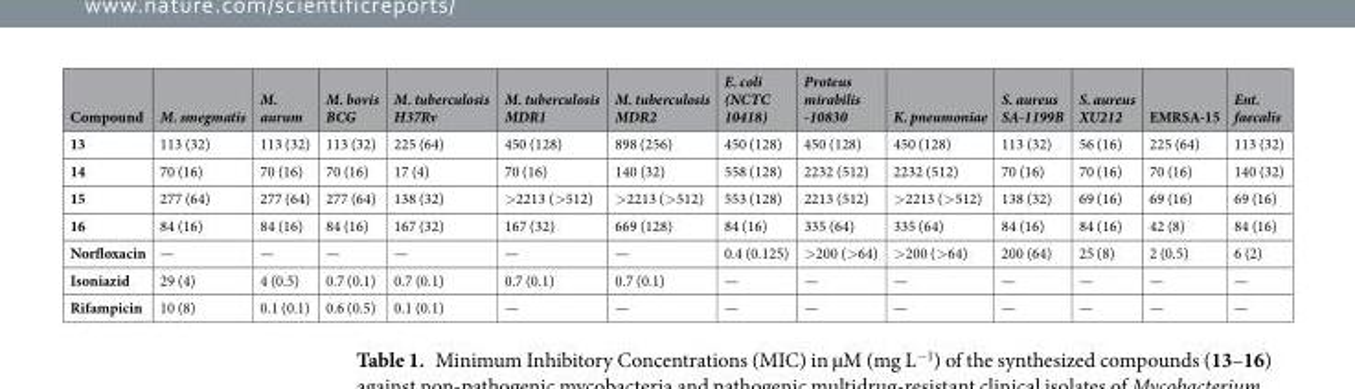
<table><thead><tr><td>Compound</td><td>M. smegmatis</td><td>M. aurum</td><td>M. bovis BCG</td><td>M. tuberculosis H37Rv</td><td>M. tuberculosis MDR1</td><td>M. tuberculosis MDR2</td><td>E. coli (NCTC 10418)</td><td>Proteus mirabilis -10830</td><td>K. pneumoniae</td><td>S. aureus SA-1199B</td><td>S. aureus XU212</td><td>EMRSA-15</td><td>Ent. faecalis</td></tr></thead><tbody><tr><td>13</td><td>113 (32)</td><td>113 (32)</td><td>113 (32)</td><td>225 (64)</td><td>450 (128)</td><td>898 (256)</td><td>450 (128)</td><td>450 (128)</td><td>450 (128)</td><td>113 (32)</td><td>56 (16)</td><td>225 (64)</td><td>113 (32)</td></tr><tr><td>14</td><td>70 (16)</td><td>70 (16)</td><td>70 (16)</td><td>17 (4)</td><td>70 (16)</td><td>140 (32)</td><td>558 (128)</td><td>2232 (512)</td><td>2232 (512)</td><td>70 (16)</td><td>70 (16)</td><td>70 (16)</td><td>140 (32)</td></tr><tr><td>15</td><td>277 (64)</td><td>277 (64)</td><td>277 (64)</td><td>138 (32)</td><td>&gt;2213 (&gt;512)</td><td>&gt;2213 (&gt;512)</td><td>553 (128)</td><td>2213 (512)</td><td>&gt;2213 (&gt;512)</td><td>138 (32)</td><td>69 (16)</td><td>69 (16)</td><td>69 (16)</td></tr><tr><td>16</td><td>84 (16)</td><td>84 (16)</td><td>84 (16)</td><td>167 (32)</td><td>167 (32)</td><td>669 (128)</td><td>84 (16)</td><td>335 (64)</td><td>335 (64)</td><td>84 (16)</td><td>84 (16)</td><td>42 (8)</td><td>84 (16)</td></tr><tr><td>Norfloxacin</td><td>—</td><td>—</td><td>—</td><td>—</td><td>—</td><td>—</td><td>0.4 (0.125)</td><td>&gt;200 (&gt;64)</td><td>&gt;200 (&gt;64)</td><td>200 (64)</td><td>25 (8)</td><td>2 (0.5)</td><td>6 (2)</td></tr><tr><td>Isoniazid</td><td>29 (4)</td><td>4 (0.5)</td><td>0.7 (0.1)</td><td>0.7 (0.1)</td><td>0.7 (0.1)</td><td>0.7 (0.1)</td><td>—</td><td>—</td><td>—</td><td>—</td><td>—</td><td>—</td><td>—</td></tr><tr><td>Rifampicin</td><td>10 (8)</td><td>0.1 (0.1)</td><td>0.6 (0.5)</td><td>0.1 (0.1)</td><td>—</td><td>—</td><td>—</td><td>—</td><td>—</td><td>—</td><td>—</td><td>—</td><td>—</td></tr></tbody></table>